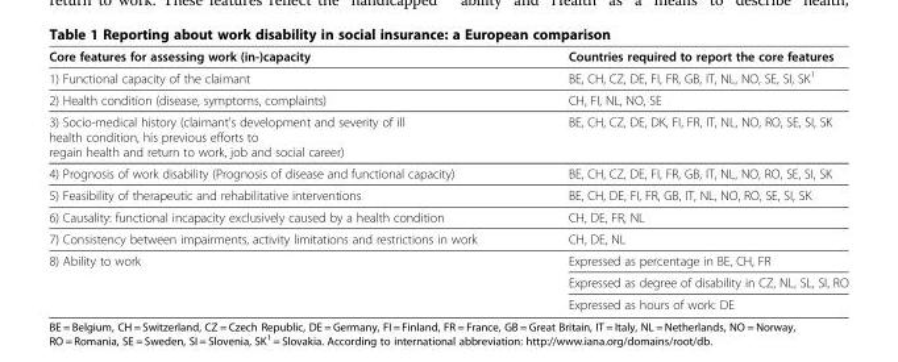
<table><thead><tr><td>Core features for assessing work (in-)capacity</td><td>Countries required to report the core features</td></tr></thead><tbody><tr><td>1) Functional capacity of the claimant</td><td>BE, CH, CZ, DE, FI, FR, GB, IT, NL, NO, SE, SI, SK<sup>1</sup></td></tr><tr><td>2) Health condition (disease, symptoms, complaints)</td><td>CH, FI, NL, NO, SE</td></tr><tr><td>3) Socio-medical history (claimant&#x27;s development and severity of ill health condition, his previous efforts to regain health and return to work, job and social career)</td><td>BE, CH, CZ, DE, DK, FI, FR, IT, NL, NO, RO, SE, SI, SK</td></tr><tr><td>4) Prognosis of work disability (Prognosis of disease and functional capacity)</td><td>BE, CH, CZ, DE, FI, FR, GB, IT, NL, NO, RO, SE, SI, SK</td></tr><tr><td>5) Feasibility of therapeutic and rehabilitative interventions</td><td>BE, CH, DE, FI, FR, GB, IT, NL, NO, RO, SE, SI, SK</td></tr><tr><td>6) Causality: functional incapacity exclusively caused by a health condition</td><td>CH, DE, FR, NL</td></tr><tr><td>7) Consistency between impairments, activity limitations and restrictions in work</td><td>CH, DE, NL</td></tr><tr><td rowspan="3">8) Ability to work</td><td>Expressed as percentage in BE, CH, FR</td></tr><tr><td>Expressed as degree of disability in CZ, NL, SL, SI, RO</td></tr><tr><td>Expressed as hours of work: DE</td></tr></tbody></table>